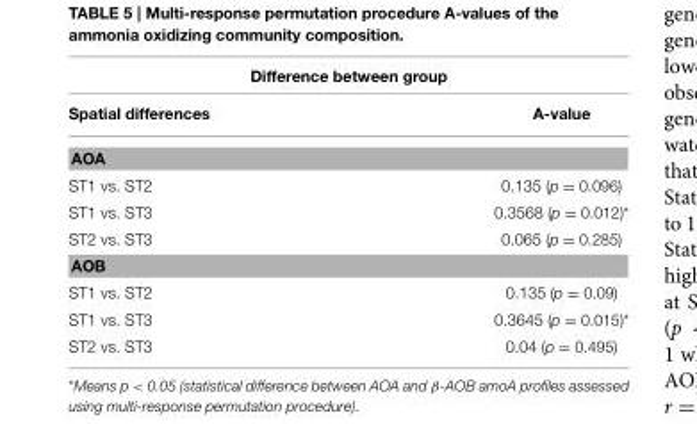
<table><thead><tr><td colspan="2">Difference between group</td></tr><tr><td>Spatial differences</td><td>A-value</td></tr></thead><tbody><tr><td colspan="2">AOA</td></tr><tr><td>ST1 vs. ST2</td><td>0.135 (p = 0.096)</td></tr><tr><td>ST1 vs. ST3</td><td>0.3568 (p = 0.012)*</td></tr><tr><td>ST2 vs. ST3</td><td>0.065 (p = 0.285)</td></tr><tr><td colspan="2">AOB</td></tr><tr><td>ST1 vs. ST2</td><td>0.135 (p = 0.09)</td></tr><tr><td>ST1 vs. ST3</td><td>0.3645 (p = 0.015)*</td></tr><tr><td>ST2 vs. ST3</td><td>0.04 (p = 0.495)</td></tr></tbody></table>